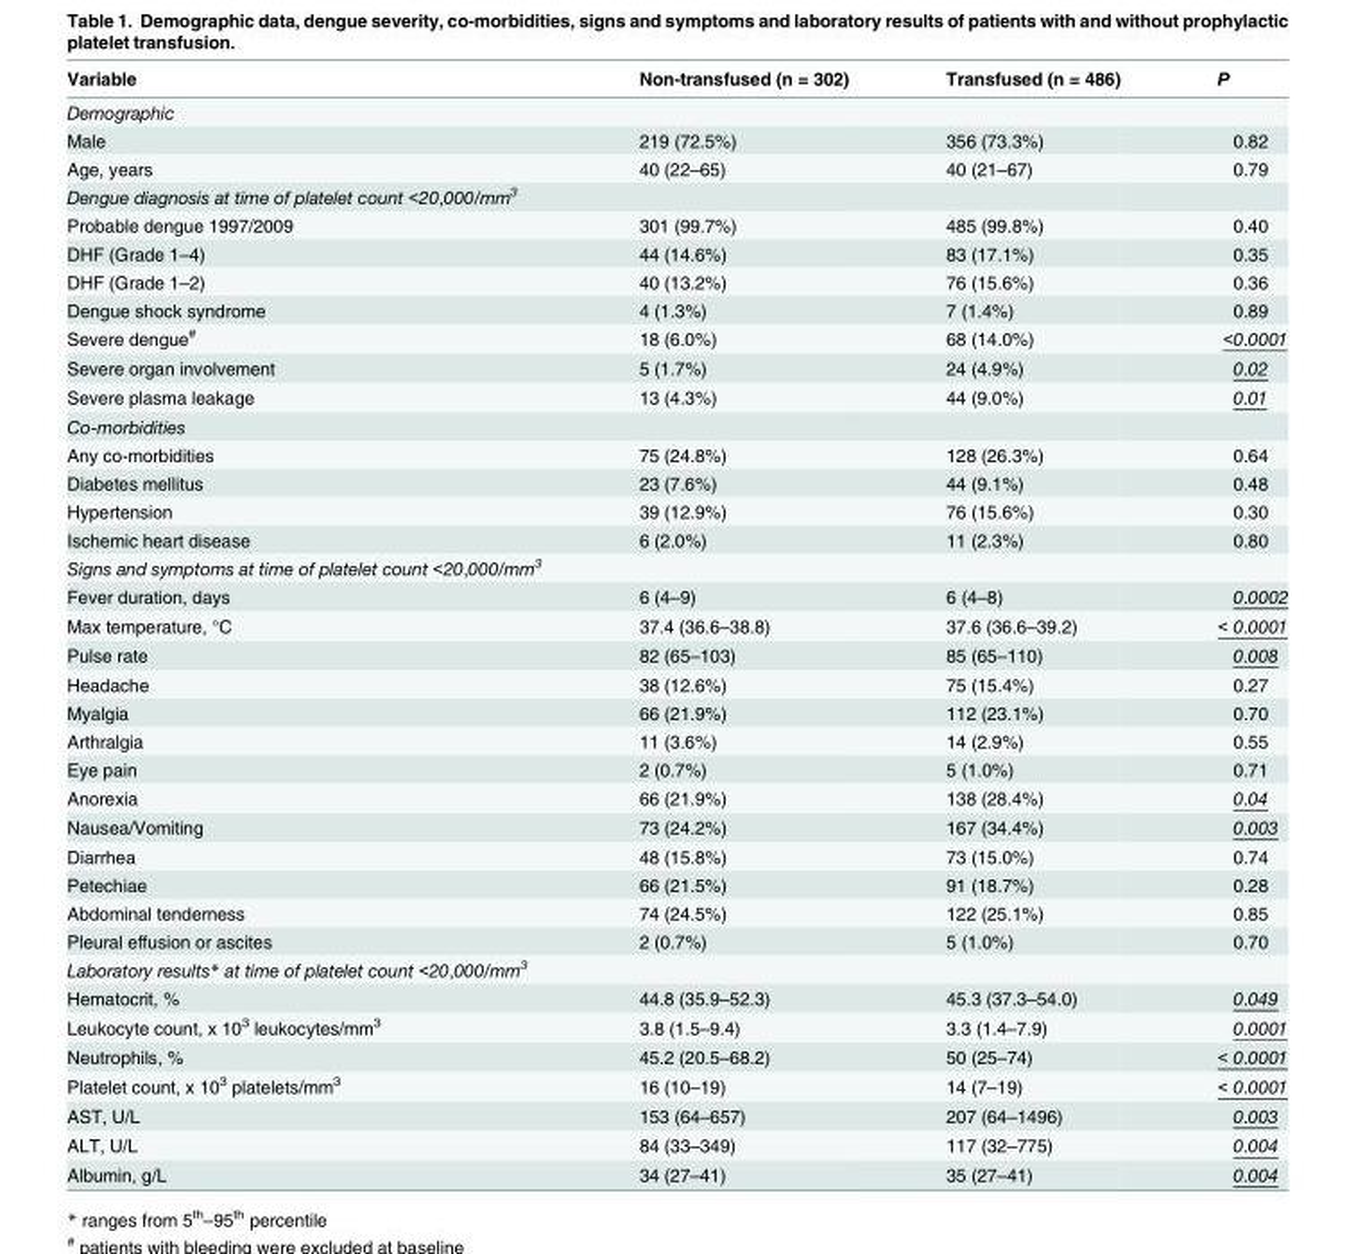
<table><thead><tr><td>Variable</td><td>Non-transfused (n = 302)</td><td>Transfused (n = 486)</td><td>P</td></tr></thead><tbody><tr><td colspan="4">Demographic</td></tr><tr><td>Male</td><td>219 (72.5%)</td><td>356 (73.3%)</td><td>0.82</td></tr><tr><td>Age, years</td><td>40 (22–65)</td><td>40 (21–67)</td><td>0.79</td></tr><tr><td colspan="4">Dengue diagnosis at time of platelet count &lt;20,000/mm<sup>3</sup></td></tr><tr><td>Probable dengue 1997/2009</td><td>301 (99.7%)</td><td>485 (99.8%)</td><td>0.40</td></tr><tr><td>DHF (Grade 1–4)</td><td>44 (14.6%)</td><td>83 (17.1%)</td><td>0.35</td></tr><tr><td>DHF (Grade 1–2)</td><td>40 (13.2%)</td><td>76 (15.6%)</td><td>0.36</td></tr><tr><td>Dengue shock syndrome</td><td>4 (1.3%)</td><td>7 (1.4%)</td><td>0.89</td></tr><tr><td>Severe dengue<sup>#</sup></td><td>18 (6.0%)</td><td>68 (14.0%)</td><td>&lt;0.0001</td></tr><tr><td>Severe organ involvement</td><td>5 (1.7%)</td><td>24 (4.9%)</td><td>0.02</td></tr><tr><td>Severe plasma leakage</td><td>13 (4.3%)</td><td>44 (9.0%)</td><td>0.01</td></tr><tr><td colspan="4">Co-morbidities</td></tr><tr><td>Any co-morbidities</td><td>75 (24.8%)</td><td>128 (26.3%)</td><td>0.64</td></tr><tr><td>Diabetes mellitus</td><td>23 (7.6%)</td><td>44 (9.1%)</td><td>0.48</td></tr><tr><td>Hypertension</td><td>39 (12.9%)</td><td>76 (15.6%)</td><td>0.30</td></tr><tr><td>Ischemic heart disease</td><td>6 (2.0%)</td><td>11 (2.3%)</td><td>0.80</td></tr><tr><td colspan="4">Signs and symptoms at time of platelet count &lt;20,000/mm<sup>3</sup></td></tr><tr><td>Fever duration, days</td><td>6 (4–9)</td><td>6 (4–8)</td><td>0.0002</td></tr><tr><td>Max temperature, °C</td><td>37.4 (36.6–38.8)</td><td>37.6 (36.6–39.2)</td><td>&lt; 0.0001</td></tr><tr><td>Pulse rate</td><td>82 (65–103)</td><td>85 (65–110)</td><td>0.008</td></tr><tr><td>Headache</td><td>38 (12.6%)</td><td>75 (15.4%)</td><td>0.27</td></tr><tr><td>Myalgia</td><td>66 (21.9%)</td><td>112 (23.1%)</td><td>0.70</td></tr><tr><td>Arthralgia</td><td>11 (3.6%)</td><td>14 (2.9%)</td><td>0.55</td></tr><tr><td>Eye pain</td><td>2 (0.7%)</td><td>5 (1.0%)</td><td>0.71</td></tr><tr><td>Anorexia</td><td>66 (21.9%)</td><td>138 (28.4%)</td><td>0.04</td></tr><tr><td>Nausea/Vomiting</td><td>73 (24.2%)</td><td>167 (34.4%)</td><td>0.003</td></tr><tr><td>Diarrhea</td><td>48 (15.8%)</td><td>73 (15.0%)</td><td>0.74</td></tr><tr><td>Petechiae</td><td>66 (21.5%)</td><td>91 (18.7%)</td><td>0.28</td></tr><tr><td>Abdominal tenderness</td><td>74 (24.5%)</td><td>122 (25.1%)</td><td>0.85</td></tr><tr><td>Pleural effusion or ascites</td><td>2 (0.7%)</td><td>5 (1.0%)</td><td>0.70</td></tr><tr><td colspan="4">Laboratory results* at time of platelet count &lt;20,000/mm<sup>3</sup></td></tr><tr><td>Hematocrit, %</td><td>44.8 (35.9–52.3)</td><td>45.3 (37.3–54.0)</td><td>0.049</td></tr><tr><td>Leukocyte count, x 10<sup>3</sup> leukocytes/mm<sup>3</sup></td><td>3.8 (1.5–9.4)</td><td>3.3 (1.4–7.9)</td><td>0.0001</td></tr><tr><td>Neutrophils, %</td><td>45.2 (20.5–68.2)</td><td>50 (25–74)</td><td>&lt; 0.0001</td></tr><tr><td>Platelet count, x 10<sup>3</sup> platelets/mm<sup>3</sup></td><td>16 (10–19)</td><td>14 (7–19)</td><td>&lt; 0.0001</td></tr><tr><td>AST, U/L</td><td>153 (64–657)</td><td>207 (64–1496)</td><td>0.003</td></tr><tr><td>ALT, U/L</td><td>84 (33–349)</td><td>117 (32–775)</td><td>0.004</td></tr><tr><td>Albumin, g/L</td><td>34 (27–41)</td><td>35 (27–41)</td><td>0.004</td></tr></tbody></table>